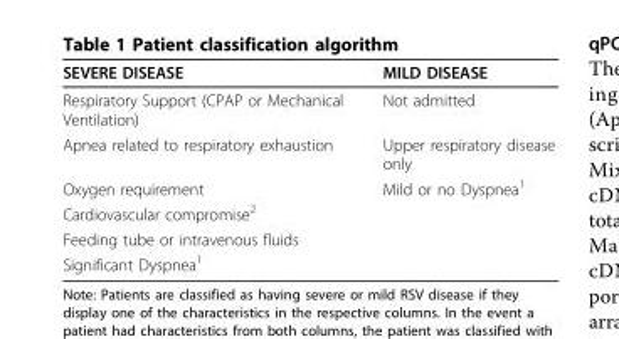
<table><thead><tr><td>SEVERE DISEASE</td><td>MILD DISEASE</td></tr></thead><tbody><tr><td>Respiratory Support (CPAP or Mechanical Ventilation)</td><td>Not admitted</td></tr><tr><td>Apnea related to respiratory exhaustion</td><td>Upper respiratory disease only</td></tr><tr><td>Oxygen requirement</td><td>Mild or no Dyspnea<sup>1</sup></td></tr><tr><td colspan="2">Cardiovascular compromise<sup>2</sup></td></tr><tr><td colspan="2">Feeding tube or intravenous fluids</td></tr><tr><td>Significant Dyspnea<sup>1</sup></td><td></td></tr></tbody></table>